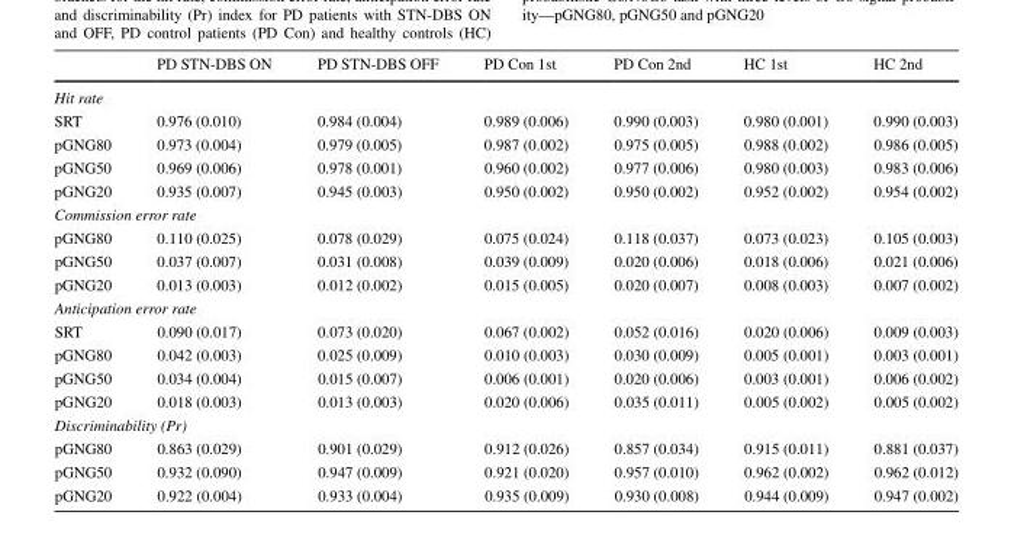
<table><thead><tr><td></td><td>PD STN-DBS ON</td><td>PD STN-DBS OFF</td><td>PD Con 1st</td><td>PD Con 2nd</td><td>HC 1st</td><td>HC 2nd</td></tr></thead><tbody><tr><td colspan="7">Hit rate</td></tr><tr><td>SRT</td><td>0.976 (0.010)</td><td>0.984 (0.004)</td><td>0.989 (0.006)</td><td>0.990 (0.003)</td><td>0.980 (0.001)</td><td>0.990 (0.003)</td></tr><tr><td>pGNG80</td><td>0.973 (0.004)</td><td>0.979 (0.005)</td><td>0.987 (0.002)</td><td>0.975 (0.005)</td><td>0.988 (0.002)</td><td>0.986 (0.005)</td></tr><tr><td>pGNG50</td><td>0.969 (0.006)</td><td>0.978 (0.001)</td><td>0.960 (0.002)</td><td>0.977 (0.006)</td><td>0.980 (0.003)</td><td>0.983 (0.006)</td></tr><tr><td>pGNG20</td><td>0.935 (0.007)</td><td>0.945 (0.003)</td><td>0.950 (0.002)</td><td>0.950 (0.002)</td><td>0.952 (0.002)</td><td>0.954 (0.002)</td></tr><tr><td colspan="7">Commission error rate</td></tr><tr><td>pGNG80</td><td>0.110 (0.025)</td><td>0.078 (0.029)</td><td>0.075 (0.024)</td><td>0.118 (0.037)</td><td>0.073 (0.023)</td><td>0.105 (0.003)</td></tr><tr><td>pGNG50</td><td>0.037 (0.007)</td><td>0.031 (0.008)</td><td>0.039 (0.009)</td><td>0.020 (0.006)</td><td>0.018 (0.006)</td><td>0.021 (0.006)</td></tr><tr><td>pGNG20</td><td>0.013 (0.003)</td><td>0.012 (0.002)</td><td>0.015 (0.005)</td><td>0.020 (0.007)</td><td>0.008 (0.003)</td><td>0.007 (0.002)</td></tr><tr><td colspan="7">Anticipation error rate</td></tr><tr><td>SRT</td><td>0.090 (0.017)</td><td>0.073 (0.020)</td><td>0.067 (0.002)</td><td>0.052 (0.016)</td><td>0.020 (0.006)</td><td>0.009 (0.003)</td></tr><tr><td>pGNG80</td><td>0.042 (0.003)</td><td>0.025 (0.009)</td><td>0.010 (0.003)</td><td>0.030 (0.009)</td><td>0.005 (0.001)</td><td>0.003 (0.001)</td></tr><tr><td>pGNG50</td><td>0.034 (0.004)</td><td>0.015 (0.007)</td><td>0.006 (0.001)</td><td>0.020 (0.006)</td><td>0.003 (0.001)</td><td>0.006 (0.002)</td></tr><tr><td>pGNG20</td><td>0.018 (0.003)</td><td>0.013 (0.003)</td><td>0.020 (0.006)</td><td>0.035 (0.011)</td><td>0.005 (0.002)</td><td>0.005 (0.002)</td></tr><tr><td colspan="7">Discriminability (Pr)</td></tr><tr><td>pGNG80</td><td>0.863 (0.029)</td><td>0.901 (0.029)</td><td>0.912 (0.026)</td><td>0.857 (0.034)</td><td>0.915 (0.011)</td><td>0.881 (0.037)</td></tr><tr><td>pGNG50</td><td>0.932 (0.090)</td><td>0.947 (0.009)</td><td>0.921 (0.020)</td><td>0.957 (0.010)</td><td>0.962 (0.002)</td><td>0.962 (0.012)</td></tr><tr><td>pGNG20</td><td>0.922 (0.004)</td><td>0.933 (0.004)</td><td>0.935 (0.009)</td><td>0.930 (0.008)</td><td>0.944 (0.009)</td><td>0.947 (0.002)</td></tr></tbody></table>